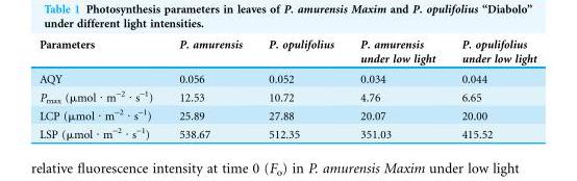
<table><thead><tr><td>Parameters</td><td>P. amurensis</td><td>P. opulifolius</td><td>P. amurensis under low light</td><td>P. opulifolius under low light</td></tr></thead><tbody><tr><td>AQY</td><td>0.056</td><td>0.052</td><td>0.034</td><td>0.044</td></tr><tr><td>P<sub>max</sub> (μmol · m<sup>-2</sup> · s<sup>-1</sup>)</td><td>12.53</td><td>10.72</td><td>4.76</td><td>6.65</td></tr><tr><td>LCP (μmol · m<sup>-2</sup> · s<sup>-1</sup>)</td><td>25.89</td><td>27.88</td><td>20.07</td><td>20.00</td></tr><tr><td>LSP (μmol · m<sup>-2</sup> · s<sup>-1</sup>)</td><td>538.67</td><td>512.35</td><td>351.03</td><td>415.52</td></tr></tbody></table>